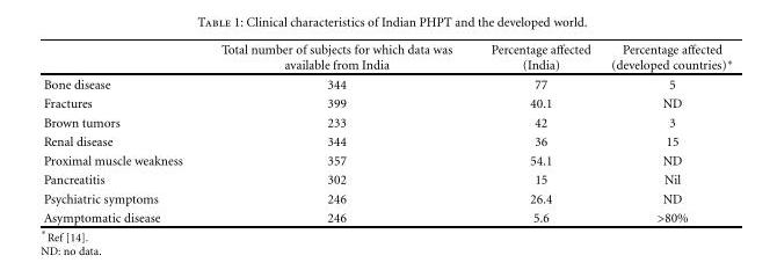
<table><thead><tr><td></td><td>Total number of subjects for which data was available from India</td><td>Percentage affected (India)</td><td>Percentage affected (developed countries)∗</td></tr></thead><tbody><tr><td>Bone disease</td><td>344</td><td>77</td><td>5</td></tr><tr><td>Fractures</td><td>399</td><td>40.1</td><td>ND</td></tr><tr><td>Brown tumors</td><td>233</td><td>42</td><td>3</td></tr><tr><td>Renal disease</td><td>344</td><td>36</td><td>15</td></tr><tr><td>Proximal muscle weakness</td><td>357</td><td>54.1</td><td>ND</td></tr><tr><td>Pancreatitis</td><td>302</td><td>15</td><td>Nil</td></tr><tr><td>Psychiatric symptoms</td><td>246</td><td>26.4</td><td>ND</td></tr><tr><td>Asymptomatic disease</td><td>246</td><td>5.6</td><td>&gt;80%</td></tr></tbody></table>